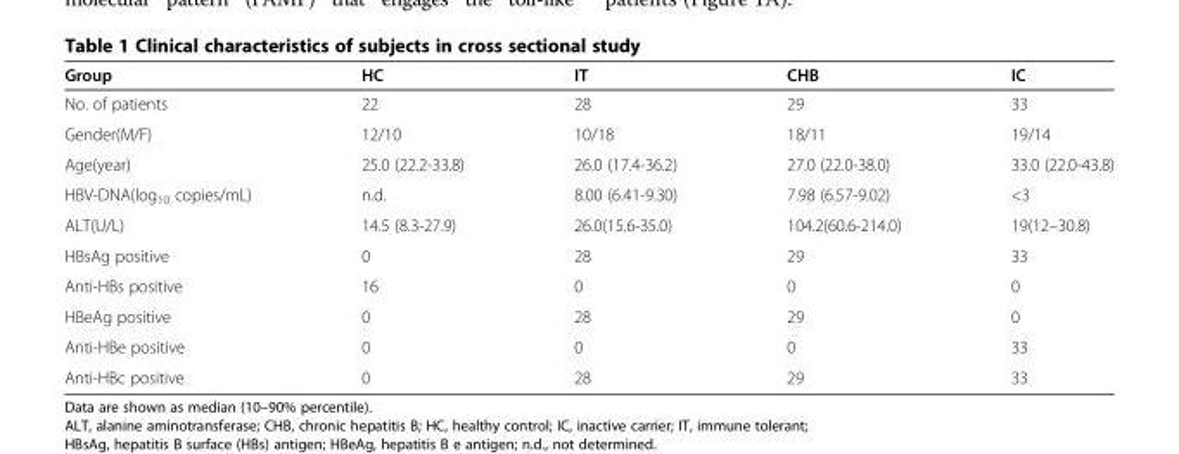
<table><thead><tr><td>Group</td><td>HC</td><td>IT</td><td>CHB</td><td>IC</td></tr></thead><tbody><tr><td>No. of patients</td><td>22</td><td>28</td><td>29</td><td>33</td></tr><tr><td>Gender(M/F)</td><td>12/10</td><td>10/18</td><td>18/11</td><td>19/14</td></tr><tr><td>Age(year)</td><td>25.0 (22.2-33.8)</td><td>26.0 (17.4-36.2)</td><td>27.0 (22.0-38.0)</td><td>33.0 (22.0-43.8)</td></tr><tr><td>HBV-DNA(log<sub>10</sub> copies/mL)</td><td>n.d.</td><td>8.00 (6.41-9.30)</td><td>7.98 (6.57-9.02)</td><td>&lt;3</td></tr><tr><td>ALT(U/L)</td><td>14.5 (8.3-27.9)</td><td>26.0(15.6-35.0)</td><td>104.2(60.6-214.0)</td><td>19(12–30.8)</td></tr><tr><td>HBsAg positive</td><td>0</td><td>28</td><td>29</td><td>33</td></tr><tr><td>Anti-HBs positive</td><td>16</td><td>0</td><td>0</td><td>0</td></tr><tr><td>HBeAg positive</td><td>0</td><td>28</td><td>29</td><td>0</td></tr><tr><td>Anti-HBe positive</td><td>0</td><td>0</td><td>0</td><td>33</td></tr><tr><td>Anti-HBc positive</td><td>0</td><td>28</td><td>29</td><td>33</td></tr></tbody></table>